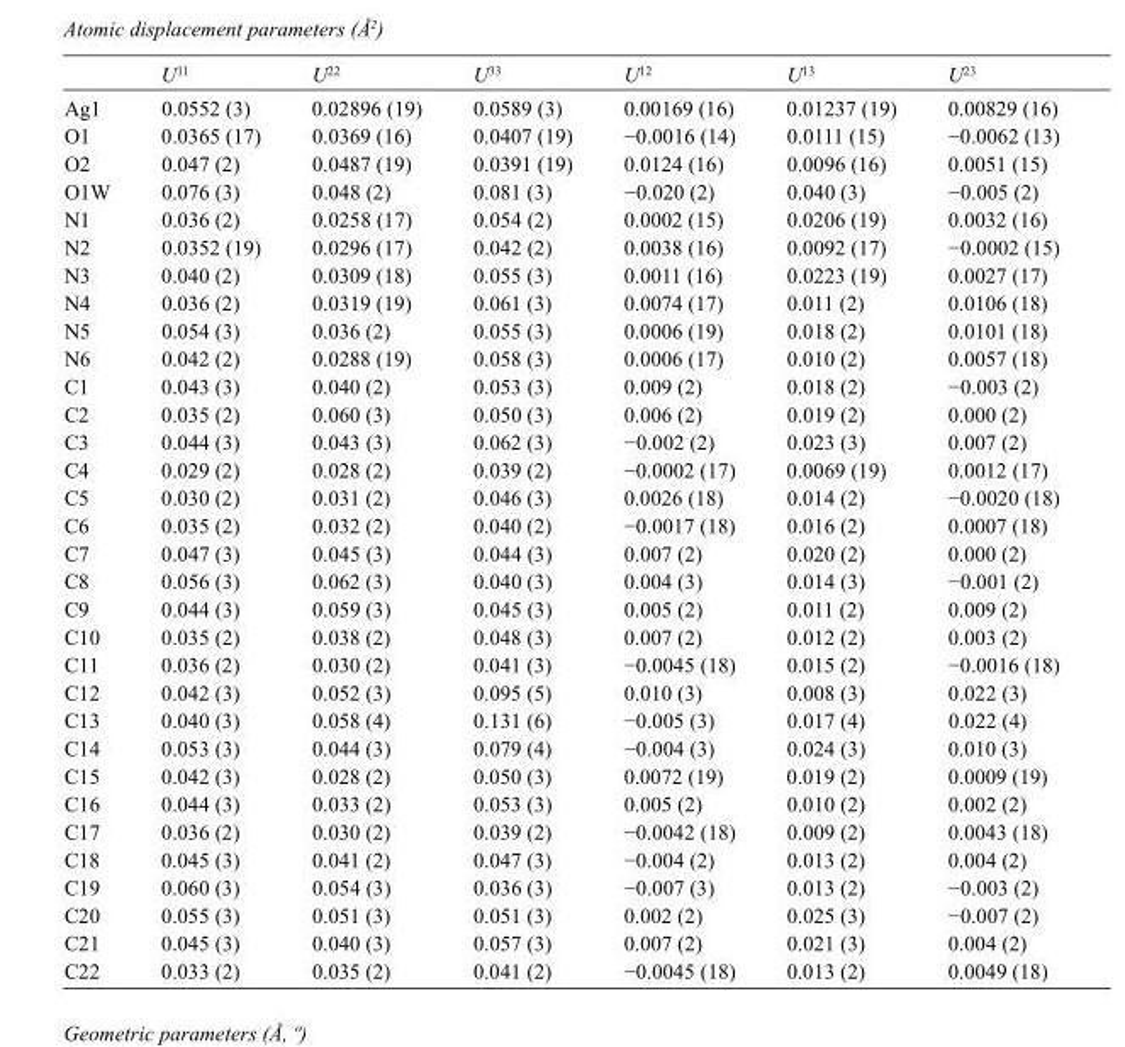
<table><thead><tr><td></td><td>U<sup>11</sup></td><td>U<sup>22</sup></td><td>U<sup>33</sup></td><td>U<sup>12</sup></td><td>U<sup>13</sup></td><td>U<sup>23</sup></td></tr></thead><tbody><tr><td>Ag1</td><td>0.0552 (3)</td><td>0.02896 (19)</td><td>0.0589 (3)</td><td>0.00169 (16)</td><td>0.01237 (19)</td><td>0.00829 (16)</td></tr><tr><td>O1</td><td>0.0365 (17)</td><td>0.0369 (16)</td><td>0.0407 (19)</td><td>−0.0016 (14)</td><td>0.0111 (15)</td><td>−0.0062 (13)</td></tr><tr><td>O2</td><td>0.047 (2)</td><td>0.0487 (19)</td><td>0.0391 (19)</td><td>0.0124 (16)</td><td>0.0096 (16)</td><td>0.0051 (15)</td></tr><tr><td>O1W</td><td>0.076 (3)</td><td>0.048 (2)</td><td>0.081 (3)</td><td>−0.020 (2)</td><td>0.040 (3)</td><td>−0.005 (2)</td></tr><tr><td>N1</td><td>0.036 (2)</td><td>0.0258 (17)</td><td>0.054 (2)</td><td>0.0002 (15)</td><td>0.0206 (19)</td><td>0.0032 (16)</td></tr><tr><td>N2</td><td>0.0352 (19)</td><td>0.0296 (17)</td><td>0.042 (2)</td><td>0.0038 (16)</td><td>0.0092 (17)</td><td>−0.0002 (15)</td></tr><tr><td>N3</td><td>0.040 (2)</td><td>0.0309 (18)</td><td>0.055 (3)</td><td>0.0011 (16)</td><td>0.0223 (19)</td><td>0.0027 (17)</td></tr><tr><td>N4</td><td>0.036 (2)</td><td>0.0319 (19)</td><td>0.061 (3)</td><td>0.0074 (17)</td><td>0.011 (2)</td><td>0.0106 (18)</td></tr><tr><td>N5</td><td>0.054 (3)</td><td>0.036 (2)</td><td>0.055 (3)</td><td>0.0006 (19)</td><td>0.018 (2)</td><td>0.0101 (18)</td></tr><tr><td>N6</td><td>0.042 (2)</td><td>0.0288 (19)</td><td>0.058 (3)</td><td>0.0006 (17)</td><td>0.010 (2)</td><td>0.0057 (18)</td></tr><tr><td>C1</td><td>0.043 (3)</td><td>0.040 (2)</td><td>0.053 (3)</td><td>0.009 (2)</td><td>0.018 (2)</td><td>−0.003 (2)</td></tr><tr><td>C2</td><td>0.035 (2)</td><td>0.060 (3)</td><td>0.050 (3)</td><td>0.006 (2)</td><td>0.019 (2)</td><td>0.000 (2)</td></tr><tr><td>C3</td><td>0.044 (3)</td><td>0.043 (3)</td><td>0.062 (3)</td><td>−0.002 (2)</td><td>0.023 (3)</td><td>0.007 (2)</td></tr><tr><td>C4</td><td>0.029 (2)</td><td>0.028 (2)</td><td>0.039 (2)</td><td>−0.0002 (17)</td><td>0.0069 (19)</td><td>0.0012 (17)</td></tr><tr><td>C5</td><td>0.030 (2)</td><td>0.031 (2)</td><td>0.046 (3)</td><td>0.0026 (18)</td><td>0.014 (2)</td><td>−0.0020 (18)</td></tr><tr><td>C6</td><td>0.035 (2)</td><td>0.032 (2)</td><td>0.040 (2)</td><td>−0.0017 (18)</td><td>0.016 (2)</td><td>0.0007 (18)</td></tr><tr><td>C7</td><td>0.047 (3)</td><td>0.045 (3)</td><td>0.044 (3)</td><td>0.007 (2)</td><td>0.020 (2)</td><td>0.000 (2)</td></tr><tr><td>C8</td><td>0.056 (3)</td><td>0.062 (3)</td><td>0.040 (3)</td><td>0.004 (3)</td><td>0.014 (3)</td><td>−0.001 (2)</td></tr><tr><td>C9</td><td>0.044 (3)</td><td>0.059 (3)</td><td>0.045 (3)</td><td>0.005 (2)</td><td>0.011 (2)</td><td>0.009 (2)</td></tr><tr><td>C10</td><td>0.035 (2)</td><td>0.038 (2)</td><td>0.048 (3)</td><td>0.007 (2)</td><td>0.012 (2)</td><td>0.003 (2)</td></tr><tr><td>C11</td><td>0.036 (2)</td><td>0.030 (2)</td><td>0.041 (3)</td><td>−0.0045 (18)</td><td>0.015 (2)</td><td>−0.0016 (18)</td></tr><tr><td>C12</td><td>0.042 (3)</td><td>0.052 (3)</td><td>0.095 (5)</td><td>0.010 (3)</td><td>0.008 (3)</td><td>0.022 (3)</td></tr><tr><td>C13</td><td>0.040 (3)</td><td>0.058 (4)</td><td>0.131 (6)</td><td>−0.005 (3)</td><td>0.017 (4)</td><td>0.022 (4)</td></tr><tr><td>C14</td><td>0.053 (3)</td><td>0.044 (3)</td><td>0.079 (4)</td><td>−0.004 (3)</td><td>0.024 (3)</td><td>0.010 (3)</td></tr><tr><td>C15</td><td>0.042 (3)</td><td>0.028 (2)</td><td>0.050 (3)</td><td>0.0072 (19)</td><td>0.019 (2)</td><td>0.0009 (19)</td></tr><tr><td>C16</td><td>0.044 (3)</td><td>0.033 (2)</td><td>0.053 (3)</td><td>0.005 (2)</td><td>0.010 (2)</td><td>0.002 (2)</td></tr><tr><td>C17</td><td>0.036 (2)</td><td>0.030 (2)</td><td>0.039 (2)</td><td>−0.0042 (18)</td><td>0.009 (2)</td><td>0.0043 (18)</td></tr><tr><td>C18</td><td>0.045 (3)</td><td>0.041 (2)</td><td>0.047 (3)</td><td>−0.004 (2)</td><td>0.013 (2)</td><td>0.004 (2)</td></tr><tr><td>C19</td><td>0.060 (3)</td><td>0.054 (3)</td><td>0.036 (3)</td><td>−0.007 (3)</td><td>0.013 (2)</td><td>−0.003 (2)</td></tr><tr><td>C20</td><td>0.055 (3)</td><td>0.051 (3)</td><td>0.051 (3)</td><td>0.002 (2)</td><td>0.025 (3)</td><td>−0.007 (2)</td></tr><tr><td>C21</td><td>0.045 (3)</td><td>0.040 (3)</td><td>0.057 (3)</td><td>0.007 (2)</td><td>0.021 (3)</td><td>0.004 (2)</td></tr><tr><td>C22</td><td>0.033 (2)</td><td>0.035 (2)</td><td>0.041 (2)</td><td>−0.0045 (18)</td><td>0.013 (2)</td><td>0.0049 (18)</td></tr></tbody></table>